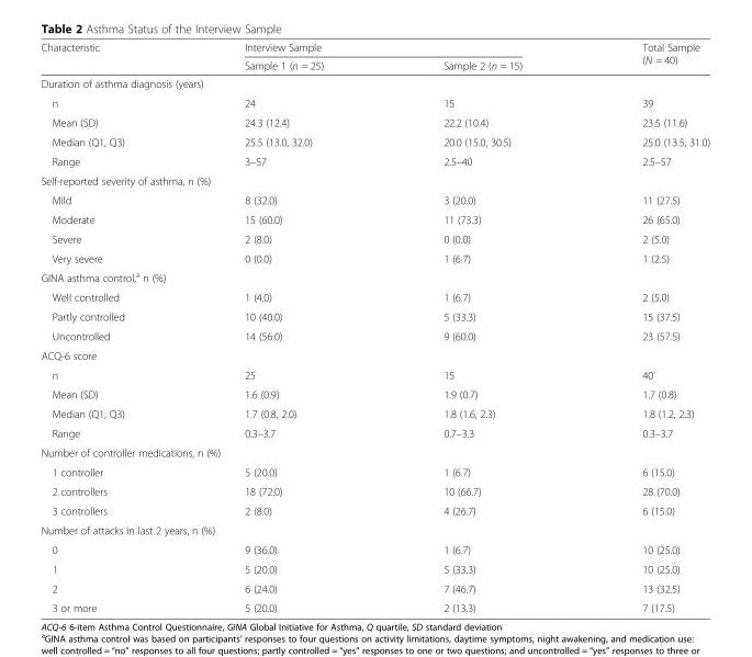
<table><thead><tr><td rowspan="2">Characteristic</td><td colspan="2">Interview Sample</td><td rowspan="2">Total Sample (N = 40)</td></tr><tr><td>Sample 1 (n = 25)</td><td>Sample 2 (n = 15)</td></tr></thead><tbody><tr><td colspan="4">Duration of asthma diagnosis (years)</td></tr><tr><td>n</td><td>24</td><td>15</td><td>39</td></tr><tr><td>Mean (SD)</td><td>24.3 (12.4)</td><td>22.2 (10.4)</td><td>23.5 (11.6)</td></tr><tr><td>Median (Q1, Q3)</td><td>25.5 (13.0, 32.0)</td><td>20.0 (15.0, 30.5)</td><td>25.0 (13.5, 31.0)</td></tr><tr><td>Range</td><td>3–57</td><td>2.5–40</td><td>2.5–57</td></tr><tr><td colspan="4">Self-reported severity of asthma, n (%)</td></tr><tr><td>Mild</td><td>8 (32.0)</td><td>3 (20.0)</td><td>11 (27.5)</td></tr><tr><td>Moderate</td><td>15 (60.0)</td><td>11 (73.3)</td><td>26 (65.0)</td></tr><tr><td>Severe</td><td>2 (8.0)</td><td>0 (0.0)</td><td>2 (5.0)</td></tr><tr><td>Very severe</td><td>0 (0.0)</td><td>1 (6.7)</td><td>1 (2.5)</td></tr><tr><td colspan="4">GINA asthma control,<sup>a</sup> n (%)</td></tr><tr><td>Well controlled</td><td>1 (4.0)</td><td>1 (6.7)</td><td>2 (5.0)</td></tr><tr><td>Partly controlled</td><td>10 (40.0)</td><td>5 (33.3)</td><td>15 (37.5)</td></tr><tr><td>Uncontrolled</td><td>14 (56.0)</td><td>9 (60.0)</td><td>23 (57.5)</td></tr><tr><td colspan="4">ACQ-6 score</td></tr><tr><td>n</td><td>25</td><td>15</td><td>40</td></tr><tr><td>Mean (SD)</td><td>1.6 (0.9)</td><td>1.9 (0.7)</td><td>1.7 (0.8)</td></tr><tr><td>Median (Q1, Q3)</td><td>1.7 (0.8, 2.0)</td><td>1.8 (1.6, 2.3)</td><td>1.8 (1.2, 2.3)</td></tr><tr><td>Range</td><td>0.3–3.7</td><td>0.7–3.3</td><td>0.3–3.7</td></tr><tr><td colspan="4">Number of controller medications, n (%)</td></tr><tr><td>1 controller</td><td>5 (20.0)</td><td>1 (6.7)</td><td>6 (15.0)</td></tr><tr><td>2 controllers</td><td>18 (72.0)</td><td>10 (66.7)</td><td>28 (70.0)</td></tr><tr><td>3 controllers</td><td>2 (8.0)</td><td>4 (26.7)</td><td>6 (15.0)</td></tr><tr><td colspan="4">Number of attacks in last 2 years, n (%)</td></tr><tr><td>0</td><td>9 (36.0)</td><td>1 (6.7)</td><td>10 (25.0)</td></tr><tr><td>1</td><td>5 (20.0)</td><td>5 (33.3)</td><td>10 (25.0)</td></tr><tr><td>2</td><td>6 (24.0)</td><td>7 (46.7)</td><td>13 (32.5)</td></tr><tr><td>3 or more</td><td>5 (20.0)</td><td>2 (13.3)</td><td>7 (17.5)</td></tr></tbody></table>